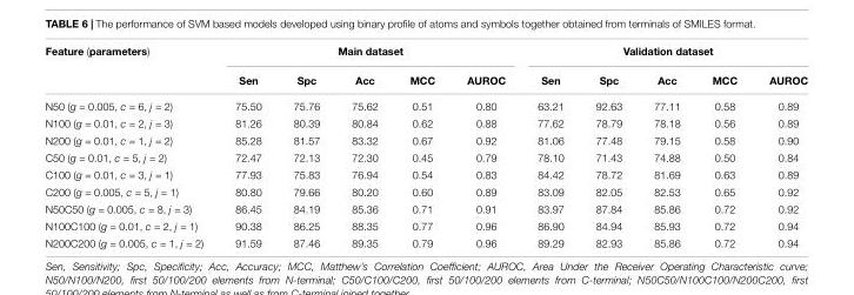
<table><thead><tr><td rowspan="2">Feature (parameters)</td><td colspan="5">Main dataset</td><td colspan="5">Validation dataset</td></tr><tr><td>Sen</td><td>Spc</td><td>Acc</td><td>MCC</td><td>AUROC</td><td>Sen</td><td>Spc</td><td>Acc</td><td>MCC</td><td>AUROC</td></tr></thead><tbody><tr><td>N50 (g = 0.005, c = 6, j = 2)</td><td>75.50</td><td>75.76</td><td>75.62</td><td>0.51</td><td>0.80</td><td>63.21</td><td>92.63</td><td>77.11</td><td>0.58</td><td>0.89</td></tr><tr><td>N100 (g = 0.01, c = 2, j = 3)</td><td>81.26</td><td>80.39</td><td>80.84</td><td>0.62</td><td>0.88</td><td>77.62</td><td>78.79</td><td>78.18</td><td>0.56</td><td>0.89</td></tr><tr><td>N200 (g = 0.01, c = 1, j = 2)</td><td>85.28</td><td>81.57</td><td>83.32</td><td>0.67</td><td>0.92</td><td>81.06</td><td>77.48</td><td>79.15</td><td>0.58</td><td>0.90</td></tr><tr><td>C50 (g = 0.01, c = 5, j = 2)</td><td>72.47</td><td>72.13</td><td>72.30</td><td>0.45</td><td>0.79</td><td>78.10</td><td>71.43</td><td>74.88</td><td>0.50</td><td>0.84</td></tr><tr><td>C100 (g = 0.01, c = 3, j = 1)</td><td>77.93</td><td>75.83</td><td>76.94</td><td>0.54</td><td>0.83</td><td>84.42</td><td>78.72</td><td>81.69</td><td>0.63</td><td>0.89</td></tr><tr><td>C200 (g = 0.005, c = 5, j = 1)</td><td>80.80</td><td>79.66</td><td>80.20</td><td>0.60</td><td>0.89</td><td>83.09</td><td>82.05</td><td>82.53</td><td>0.65</td><td>0.92</td></tr><tr><td>N50C50 (g = 0.005, c = 8, j = 3)</td><td>86.45</td><td>84.19</td><td>85.36</td><td>0.71</td><td>0.91</td><td>83.97</td><td>87.84</td><td>85.86</td><td>0.72</td><td>0.92</td></tr><tr><td>N100C100 (g = 0.01, c = 2, j = 1)</td><td>90.38</td><td>86.25</td><td>88.35</td><td>0.77</td><td>0.96</td><td>86.90</td><td>84.94</td><td>85.93</td><td>0.72</td><td>0.94</td></tr><tr><td>N200C200 (g = 0.005, c = 1, j = 2)</td><td>91.59</td><td>87.46</td><td>89.35</td><td>0.79</td><td>0.96</td><td>89.29</td><td>82.93</td><td>85.86</td><td>0.72</td><td>0.94</td></tr></tbody></table>